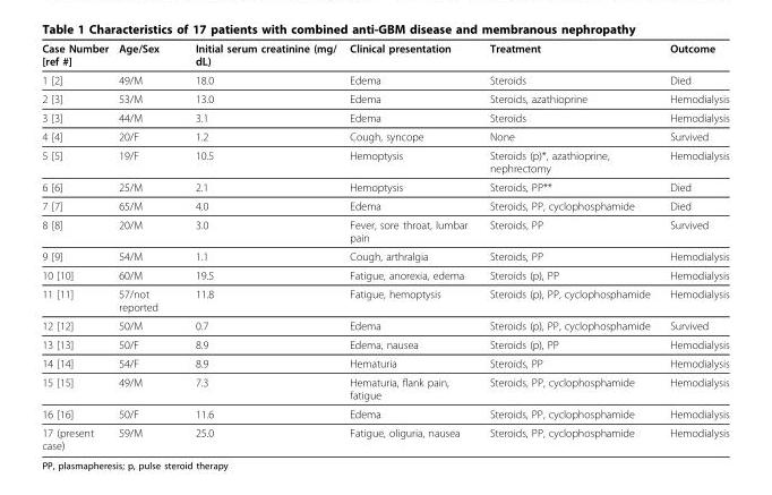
<table><thead><tr><td>Case Number [ref #]</td><td>Age/Sex</td><td>Initial serum creatinine (mg/ dL)</td><td>Clinical presentation</td><td>Treatment</td><td>Outcome</td></tr></thead><tbody><tr><td>1 [2]</td><td>49/M</td><td>18.0</td><td>Edema</td><td>Steroids</td><td>Died</td></tr><tr><td>2 [3]</td><td>53/M</td><td>13.0</td><td>Edema</td><td>Steroids, azathioprine</td><td>Hemodialysis</td></tr><tr><td>3 [3]</td><td>44/M</td><td>3.1</td><td>Edema</td><td>Steroids</td><td>Hemodialysis</td></tr><tr><td>4 [4]</td><td>20/F</td><td>1.2</td><td>Cough, syncope</td><td>None</td><td>Survived</td></tr><tr><td>5 [5]</td><td>19/F</td><td>10.5</td><td>Hemoptysis</td><td>Steroids (p)*, azathioprine, nephrectomy</td><td>Hemodialysis</td></tr><tr><td>6 [6]</td><td>25/M</td><td>2.1</td><td>Hemoptysis</td><td>Steroids, PP**</td><td>Died</td></tr><tr><td>7 [7]</td><td>65/M</td><td>4.0</td><td>Edema</td><td>Steroids, PP, cyclophosphamide</td><td>Died</td></tr><tr><td>8 [8]</td><td>20/M</td><td>3.0</td><td>Fever, sore throat, lumbar pain</td><td>Steroids, PP</td><td>Survived</td></tr><tr><td>9 [9]</td><td>54/M</td><td>1.1</td><td>Cough, arthralgia</td><td>Steroids, PP</td><td>Hemodialysis</td></tr><tr><td>10 [10]</td><td>60/M</td><td>19.5</td><td>Fatigue, anorexia, edema</td><td>Steroids (p), PP</td><td>Hemodialysis</td></tr><tr><td>11 [11]</td><td>57/not reported</td><td>11.8</td><td>Fatigue, hemoptysis</td><td>Steroids (p), PP, cyclophosphamide</td><td>Hemodialysis</td></tr><tr><td>12 [12]</td><td>50/M</td><td>0.7</td><td>Edema</td><td>Steroids (p), PP, cyclophosphamide</td><td>Survived</td></tr><tr><td>13 [13]</td><td>50/F</td><td>8.9</td><td>Edema, nausea</td><td>Steroids (p), PP</td><td>Hemodialysis</td></tr><tr><td>14 [14]</td><td>54/F</td><td>8.9</td><td>Hematuria</td><td>Steroids, PP</td><td>Hemodialysis</td></tr><tr><td>15 [15]</td><td>49/M</td><td>7.3</td><td>Hematuria, flank pain, fatigue</td><td>Steroids, PP, cyclophosphamide</td><td>Hemodialysis</td></tr><tr><td>16 [16]</td><td>50/F</td><td>11.6</td><td>Edema</td><td>Steroids, PP, cyclophosphamide</td><td>Hemodialysis</td></tr><tr><td>17 (present case)</td><td>59/M</td><td>25.0</td><td>Fatigue, oliguria, nausea</td><td>Steroids, PP, cyclophosphamide</td><td>Hemodialysis</td></tr></tbody></table>